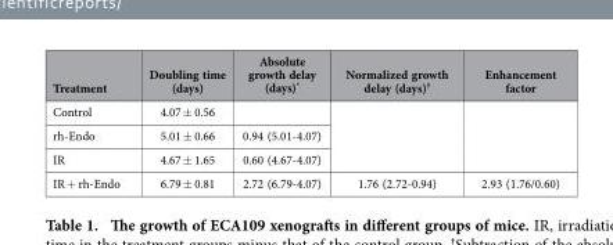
<table><thead><tr><td>Treatment</td><td>Doubling time (days)</td><td>Absolute growth delay (days)*</td><td>Normalized growth delay (days)†</td><td>Enhancement factor</td></tr></thead><tbody><tr><td>Control</td><td>4.07 ± 0.56</td><td></td><td rowspan="3"></td><td rowspan="3"></td></tr><tr><td>rh-Endo</td><td>5.01 ± 0.66</td><td>0.94 (5.01-4.07)</td></tr><tr><td>IR</td><td>4.67 ± 1.65</td><td>0.60 (4.67-4.07)</td></tr><tr><td>IR + rh-Endo</td><td>6.79 ± 0.81</td><td>2.72 (6.79-4.07)</td><td>1.76 (2.72-0.94)</td><td>2.93 (1.76/0.60)</td></tr></tbody></table>